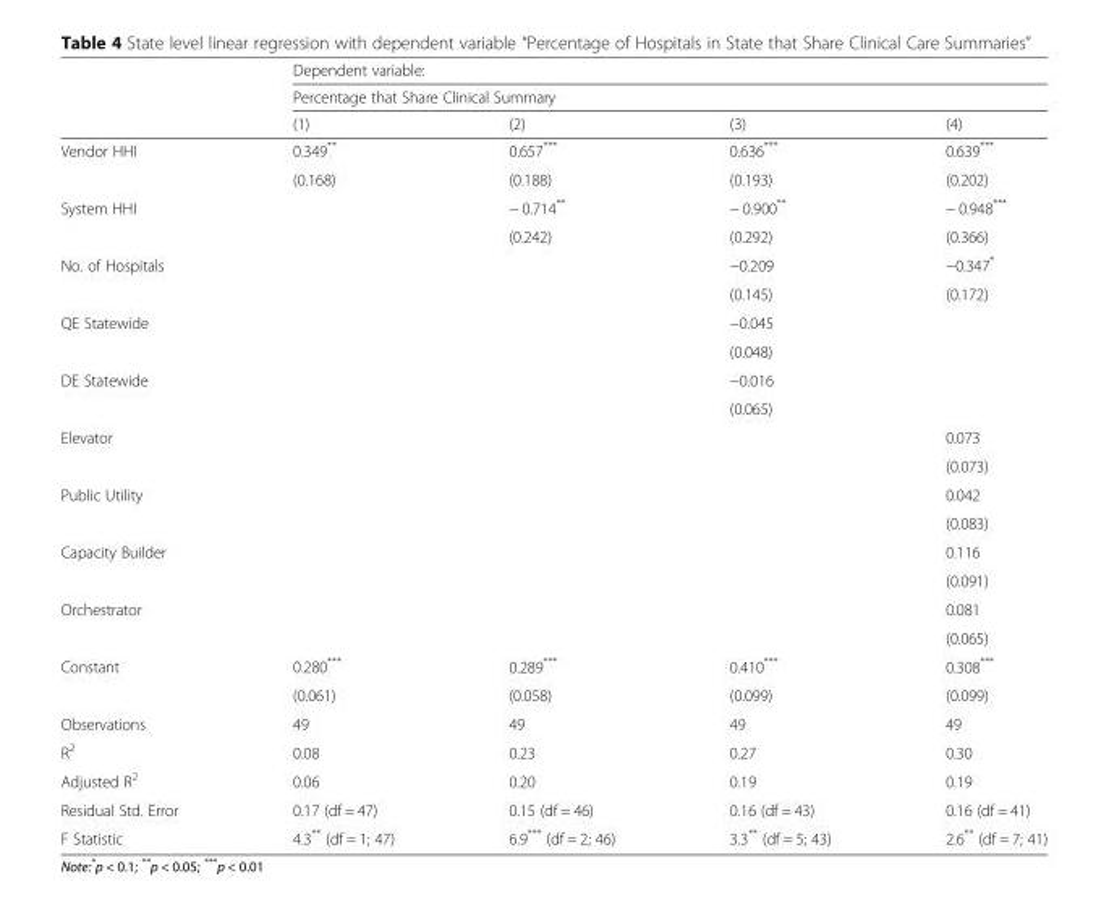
<table><thead><tr><td rowspan="3"></td><td rowspan="2" colspan="4">Dependent variable: Percentage that Share Clinical Summary</td></tr><tr></tr><tr><td>(1)</td><td>(2)</td><td>(3)</td><td>(4)</td></tr></thead><tbody><tr><td rowspan="2">Vendor HHI</td><td>0.349**</td><td>0.657***</td><td>0.636***</td><td>0.639***</td></tr><tr><td>(0.168)</td><td>(0.188)</td><td>(0.193)</td><td>(0.202)</td></tr><tr><td rowspan="2">System HHI</td><td></td><td>− 0.714**</td><td>− 0.900**</td><td>− 0.948***</td></tr><tr><td></td><td>(0.242)</td><td>(0.292)</td><td>(0.366)</td></tr><tr><td rowspan="2">No. of Hospitals</td><td></td><td></td><td>−0.209</td><td>−0.347*</td></tr><tr><td></td><td></td><td>(0.145)</td><td>(0.172)</td></tr><tr><td rowspan="2">QE Statewide</td><td></td><td></td><td>−0.045</td><td></td></tr><tr><td></td><td></td><td>(0.048)</td><td></td></tr><tr><td rowspan="2">DE Statewide</td><td></td><td></td><td>−0.016</td><td></td></tr><tr><td></td><td></td><td>(0.065)</td><td></td></tr><tr><td rowspan="2">Elevator</td><td></td><td></td><td></td><td>0.073</td></tr><tr><td></td><td></td><td></td><td>(0.073)</td></tr><tr><td rowspan="2">Public Utility</td><td></td><td></td><td></td><td>0.042</td></tr><tr><td></td><td></td><td></td><td>(0.083)</td></tr><tr><td rowspan="2">Capacity Builder</td><td></td><td></td><td></td><td>0.116</td></tr><tr><td></td><td></td><td></td><td>(0.091)</td></tr><tr><td rowspan="2">Orchestrator</td><td></td><td></td><td></td><td>0.081</td></tr><tr><td></td><td></td><td></td><td>(0.065)</td></tr><tr><td rowspan="2">Constant</td><td>0.280***</td><td>0.289***</td><td>0.410***</td><td>0.308***</td></tr><tr><td>(0.061)</td><td>(0.058)</td><td>(0.099)</td><td>(0.099)</td></tr><tr><td>Observations</td><td>49</td><td>49</td><td>49</td><td>49</td></tr><tr><td>R<sup>2</sup></td><td>0.08</td><td>0.23</td><td>0.27</td><td>0.30</td></tr><tr><td>Adjusted R<sup>2</sup></td><td>0.06</td><td>0.20</td><td>0.19</td><td>0.19</td></tr><tr><td>Residual Std. Error</td><td>0.17 (df = 47)</td><td>0.15 (df = 46)</td><td>0.16 (df = 43)</td><td>0.16 (df = 41)</td></tr><tr><td>F Statistic</td><td>4.3** (df = 1; 47)</td><td>6.9*** (df = 2; 46)</td><td>3.3** (df = 5; 43)</td><td>2.6** (df = 7; 41)</td></tr></tbody></table>